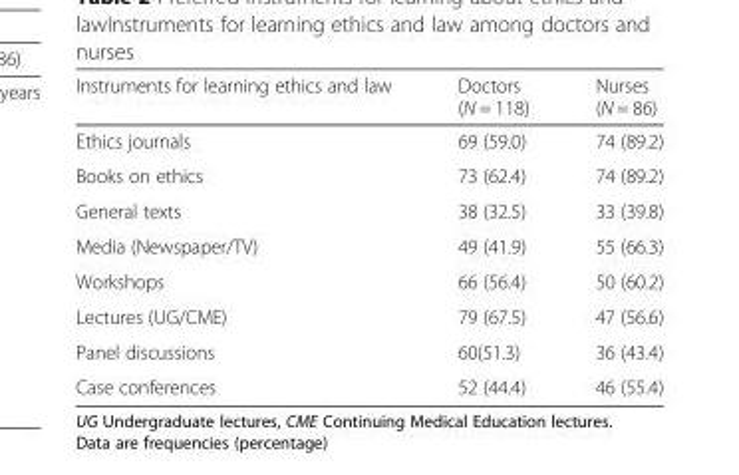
<table><thead><tr><td>Instruments for learning ethics and law</td><td>Doctors (N = 118)</td><td>Nurses (N = 86)</td></tr></thead><tbody><tr><td>Ethics journals</td><td>69 (59.0)</td><td>74 (89.2)</td></tr><tr><td>Books on ethics</td><td>73 (62.4)</td><td>74 (89.2)</td></tr><tr><td>General texts</td><td>38 (32.5)</td><td>33 (39.8)</td></tr><tr><td>Media (Newspaper/TV)</td><td>49 (41.9)</td><td>55 (66.3)</td></tr><tr><td>Workshops</td><td>66 (56.4)</td><td>50 (60.2)</td></tr><tr><td>Lectures (UG/CME)</td><td>79 (67.5)</td><td>47 (56.6)</td></tr><tr><td>Panel discussions</td><td>60(51.3)</td><td>36 (43.4)</td></tr><tr><td>Case conferences</td><td>52 (44.4)</td><td>46 (55.4)</td></tr></tbody></table>